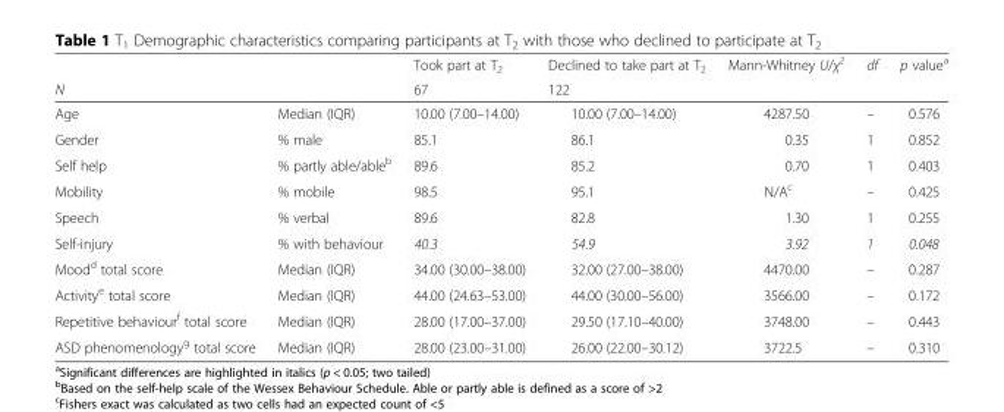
<table><thead><tr><td rowspan="2">N</td><td rowspan="2"></td><td rowspan="2">Took part at T<sub>2</sub> 67</td><td rowspan="2">Declined to take part at T<sub>2</sub> 122</td><td rowspan="2">Mann-Whitney U/χ<sup>2</sup></td><td rowspan="2">df</td><td rowspan="2">p value<sup>a</sup></td></tr><tr></tr></thead><tbody><tr><td>Age</td><td>Median (IQR)</td><td>10.00 (7.00–14.00)</td><td>10.00 (7.00–14.00)</td><td>4287.50</td><td>–</td><td>0.576</td></tr><tr><td>Gender</td><td>% male</td><td>85.1</td><td>86.1</td><td>0.35</td><td>1</td><td>0.852</td></tr><tr><td>Self help</td><td>% partly able/able<sup>b</sup></td><td>89.6</td><td>85.2</td><td>0.70</td><td>1</td><td>0.403</td></tr><tr><td>Mobility</td><td>% mobile</td><td>98.5</td><td>95.1</td><td>N/A<sup>c</sup></td><td>–</td><td>0.425</td></tr><tr><td>Speech</td><td>% verbal</td><td>89.6</td><td>82.8</td><td>1.30</td><td>1</td><td>0.255</td></tr><tr><td>Self-injury</td><td>% with behaviour</td><td>40.3</td><td>54.9</td><td>3.92</td><td>1</td><td>0.048</td></tr><tr><td>Mood<sup>d</sup> total score</td><td>Median (IQR)</td><td>34.00 (30.00–38.00)</td><td>32.00 (27.00–38.00)</td><td>4470.00</td><td>–</td><td>0.287</td></tr><tr><td>Activity<sup>e</sup> total score</td><td>Median (IQR)</td><td>44.00 (24.63–53.00)</td><td>44.00 (30.00–56.00)</td><td>3566.00</td><td>–</td><td>0.172</td></tr><tr><td>Repetitive behaviour<sup>f</sup> total score</td><td>Median (IQR)</td><td>28.00 (17.00–37.00)</td><td>29.50 (17.10–40.00)</td><td>3748.00</td><td>–</td><td>0.443</td></tr><tr><td>ASD phenomenology<sup>g</sup> total score</td><td>Median (IQR)</td><td>28.00 (23.00–31.00)</td><td>26.00 (22.00–30.12)</td><td>3722.5</td><td>–</td><td>0.310</td></tr></tbody></table>